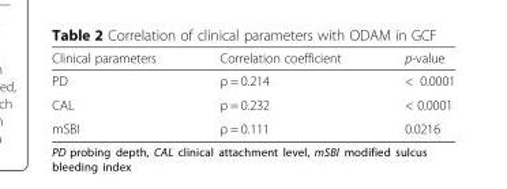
<table><thead><tr><td>Clinical parameters</td><td>Correlation coefficient</td><td>p-value</td></tr></thead><tbody><tr><td>PD</td><td>ρ = 0.214</td><td>&lt; 0.0001</td></tr><tr><td>CAL</td><td>ρ = 0.232</td><td>&lt; 0.0001</td></tr><tr><td>mSBI</td><td>ρ = 0.111</td><td>0.0216</td></tr></tbody></table>